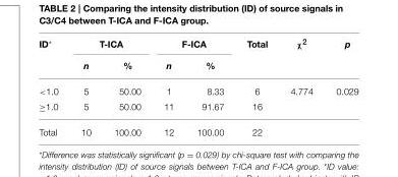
<table><thead><tr><td rowspan="2">ID*</td><td colspan="2">T-ICA</td><td colspan="2">F-ICA</td><td rowspan="2">Total</td><td rowspan="2">χ2</td><td rowspan="2">p</td></tr><tr><td>n</td><td>%</td><td>n</td><td>%</td></tr></thead><tbody><tr><td>&lt;1.0</td><td>5</td><td>50.00</td><td>1</td><td>8.33</td><td>6</td><td>4.774</td><td>0.029</td></tr><tr><td>≥1.0</td><td>5</td><td>50.00</td><td>11</td><td>91.67</td><td>16</td><td></td><td></td></tr><tr><td>Total</td><td>10</td><td>100.00</td><td>12</td><td>100.00</td><td>22</td><td></td><td></td></tr></tbody></table>